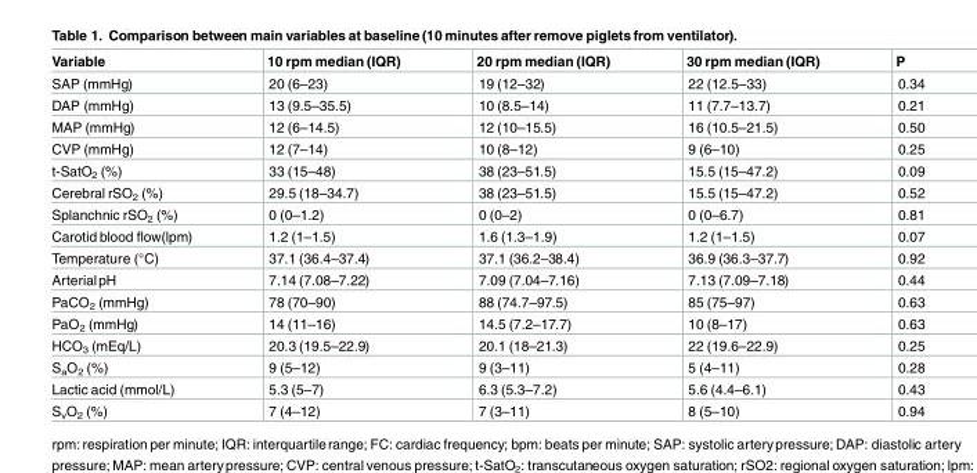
<table><thead><tr><td>Variable</td><td>10 rpm median (IQR)</td><td>20 rpm median (IQR)</td><td>30 rpm median (IQR)</td><td>P</td></tr></thead><tbody><tr><td>SAP (mmHg)</td><td>20 (6–23)</td><td>19 (12–32)</td><td>22 (12.5–33)</td><td>0.34</td></tr><tr><td>DAP (mmHg)</td><td>13 (9.5–35.5)</td><td>10 (8.5–14)</td><td>11 (7.7–13.7)</td><td>0.21</td></tr><tr><td>MAP (mmHg)</td><td>12 (6–14.5)</td><td>12 (10–15.5)</td><td>16 (10.5–21.5)</td><td>0.50</td></tr><tr><td>CVP (mmHg)</td><td>12 (7–14)</td><td>10 (8–12)</td><td>9 (6–10)</td><td>0.25</td></tr><tr><td>t-SatO<sub>2</sub> (%)</td><td>33 (15–48)</td><td>38 (23–51.5)</td><td>15.5 (15–47.2)</td><td>0.09</td></tr><tr><td>Cerebral rSO<sub>2</sub> (%)</td><td>29.5 (18–34.7)</td><td>38 (23–51.5)</td><td>15.5 (15–47.2)</td><td>0.52</td></tr><tr><td>Splanchnic rSO<sub>2</sub> (%)</td><td>0 (0–1.2)</td><td>0 (0–2)</td><td>0 (0–6.7)</td><td>0.81</td></tr><tr><td>Carotid blood flow(lpm)</td><td>1.2 (1–1.5)</td><td>1.6 (1.3–1.9)</td><td>1.2 (1–1.5)</td><td>0.07</td></tr><tr><td>Temperature (°C)</td><td>37.1 (36.4–37.4)</td><td>37.1 (36.2–38.4)</td><td>36.9 (36.3–37.7)</td><td>0.92</td></tr><tr><td>ArterialpH</td><td>7.14 (7.08–7.22)</td><td>7.09 (7.04–7.16)</td><td>7.13 (7.09–7.18)</td><td>0.44</td></tr><tr><td>PaCO<sub>2</sub> (mmHg)</td><td>78 (70–90)</td><td>88 (74.7–97.5)</td><td>85 (75–97)</td><td>0.63</td></tr><tr><td>PaO<sub>2</sub> (mmHg)</td><td>14 (11–16)</td><td>14.5 (7.2–17.7)</td><td>10 (8–17)</td><td>0.63</td></tr><tr><td>HCO<sub>3</sub> (mEq/L)</td><td>20.3 (19.5–22.9)</td><td>20.1 (18–21.3)</td><td>22 (19.6–22.9)</td><td>0.25</td></tr><tr><td>S<sub>a</sub>O<sub>2</sub> (%)</td><td>9 (5–12)</td><td>9 (3–11)</td><td>5 (4–11)</td><td>0.28</td></tr><tr><td>Lactic acid (mmol/L)</td><td>5.3 (5–7)</td><td>6.3 (5.3–7.2)</td><td>5.6 (4.4–6.1)</td><td>0.43</td></tr><tr><td>S<sub>v</sub>O<sub>2</sub> (%)</td><td>7 (4–12)</td><td>7 (3–11)</td><td>8 (5–10)</td><td>0.94</td></tr></tbody></table>